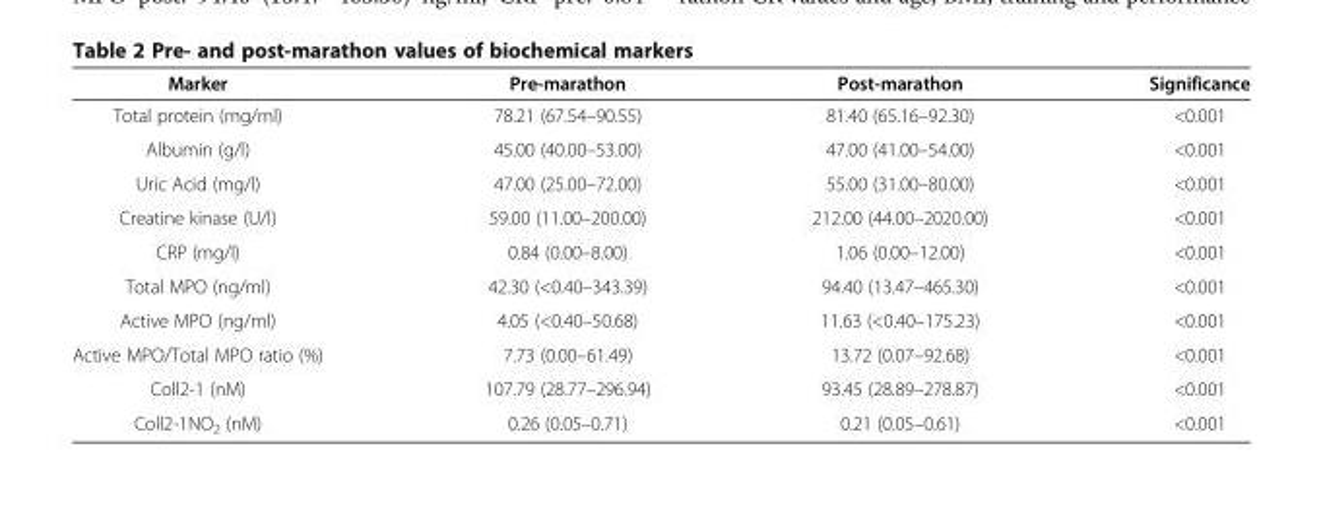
<table><thead><tr><td>Marker</td><td>Pre-marathon</td><td>Post-marathon</td><td>Significance</td></tr></thead><tbody><tr><td>Total protein (mg/ml)</td><td>78.21 (67.54–90.55)</td><td>81.40 (65.16–92.30)</td><td>&lt;0.001</td></tr><tr><td>Albumin (g/l)</td><td>45.00 (40.00–53.00)</td><td>47.00 (41.00–54.00)</td><td>&lt;0.001</td></tr><tr><td>Uric Acid (mg/l)</td><td>47.00 (25.00–72.00)</td><td>55.00 (31.00–80.00)</td><td>&lt;0.001</td></tr><tr><td>Creatine kinase (U/l)</td><td>59.00 (11.00–200.00)</td><td>212.00 (44.00–2020.00)</td><td>&lt;0.001</td></tr><tr><td>CRP (mg/l)</td><td>0.84 (0.00–8.00)</td><td>1.06 (0.00–12.00)</td><td>&lt;0.001</td></tr><tr><td>Total MPO (ng/ml)</td><td>42.30 (&lt;0.40–343.39)</td><td>94.40 (13.47–465.30)</td><td>&lt;0.001</td></tr><tr><td>Active MPO (ng/ml)</td><td>4.05 (&lt;0.40–50.68)</td><td>11.63 (&lt;0.40–175.23)</td><td>&lt;0.001</td></tr><tr><td>Active MPO/Total MPO ratio (%)</td><td>7.73 (0.00–61.49)</td><td>13.72 (0.07–92.68)</td><td>&lt;0.001</td></tr><tr><td>Coll2-1 (nM)</td><td>107.79 (28.77–296.94)</td><td>93.45 (28.89–278.87)</td><td>&lt;0.001</td></tr><tr><td>Coll2-1NO<sub>2</sub> (nM)</td><td>0.26 (0.05–0.71)</td><td>0.21 (0.05–0.61)</td><td>&lt;0.001</td></tr></tbody></table>